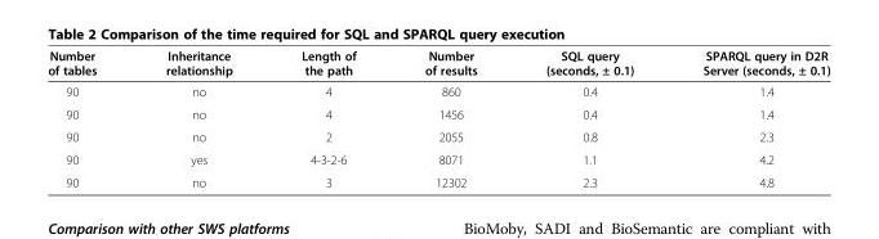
<table><thead><tr><td>Number of tables</td><td>Inheritance relationship</td><td>Length of the path</td><td>Number of results</td><td>SQL query (seconds, ± 0.1)</td><td>SPARQL query in D2R Server (seconds, ± 0.1)</td></tr></thead><tbody><tr><td>90</td><td>no</td><td>4</td><td>860</td><td>0.4</td><td>1.4</td></tr><tr><td>90</td><td>no</td><td>4</td><td>1456</td><td>0.4</td><td>1.4</td></tr><tr><td>90</td><td>no</td><td>2</td><td>2055</td><td>0.8</td><td>2.3</td></tr><tr><td>90</td><td>yes</td><td>4-3-2-6</td><td>8071</td><td>1.1</td><td>4.2</td></tr><tr><td>90</td><td>no</td><td>3</td><td>12302</td><td>2.3</td><td>4.8</td></tr></tbody></table>